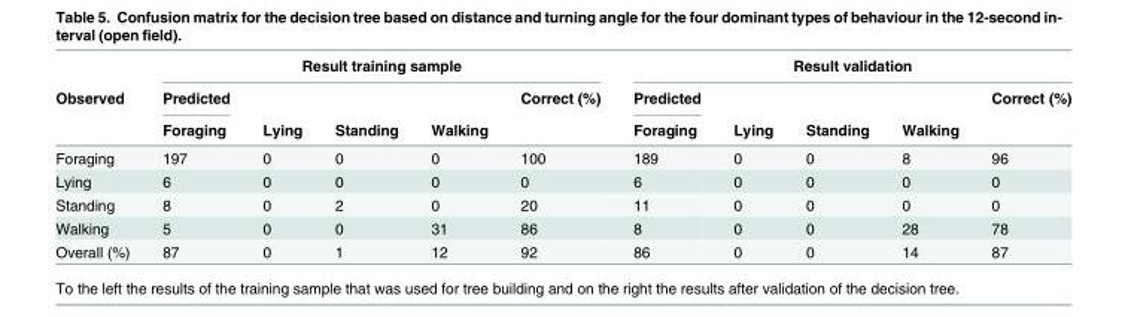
<table><thead><tr><td rowspan="3">Observed</td><td colspan="5">Result training sample</td><td colspan="5">Result validation</td></tr><tr><td rowspan="2">Predicted Foraging</td><td rowspan="2">Lying</td><td rowspan="2">Standing</td><td rowspan="2">Walking</td><td rowspan="2">Correct (%)</td><td rowspan="2">Predicted Foraging</td><td rowspan="2">Lying</td><td rowspan="2">Standing</td><td rowspan="2">Walking</td><td rowspan="2">Correct (%)</td></tr><tr></tr></thead><tbody><tr><td>Foraging</td><td>197</td><td>0</td><td>0</td><td>0</td><td>100</td><td>189</td><td>0</td><td>0</td><td>8</td><td>96</td></tr><tr><td>Lying</td><td>6</td><td>0</td><td>0</td><td>0</td><td>0</td><td>6</td><td>0</td><td>0</td><td>0</td><td>0</td></tr><tr><td>Standing</td><td>8</td><td>0</td><td>2</td><td>0</td><td>20</td><td>11</td><td>0</td><td>0</td><td>0</td><td>0</td></tr><tr><td>Walking</td><td>5</td><td>0</td><td>0</td><td>31</td><td>86</td><td>8</td><td>0</td><td>0</td><td>28</td><td>78</td></tr><tr><td>Overall (%)</td><td>87</td><td>0</td><td>1</td><td>12</td><td>92</td><td>86</td><td>0</td><td>0</td><td>14</td><td>87</td></tr></tbody></table>